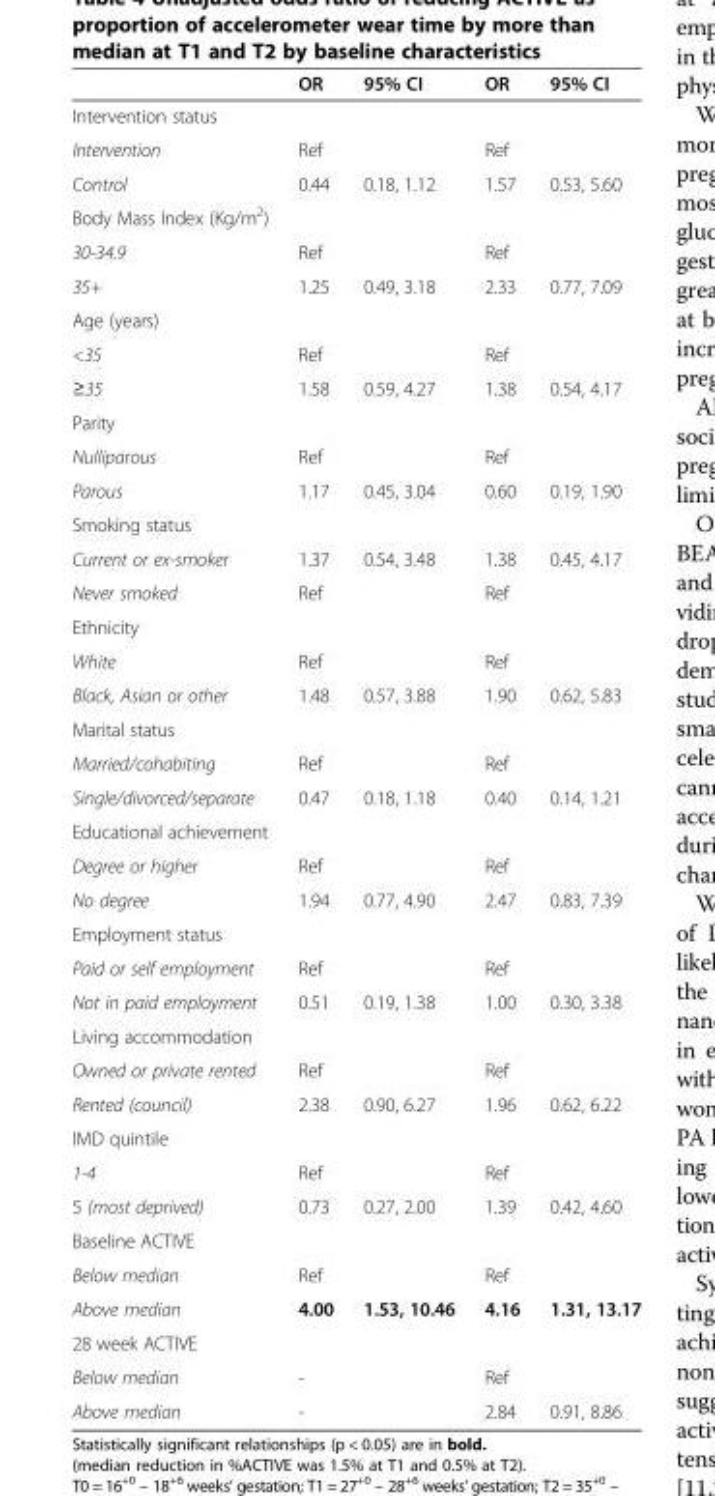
<table><thead><tr><td></td><td>OR</td><td>95% CI</td><td>OR</td><td>95% CI</td></tr></thead><tbody><tr><td colspan="5">Intervention status</td></tr><tr><td>Intervention</td><td>Ref</td><td></td><td>Ref</td><td></td></tr><tr><td>Control</td><td>0.44</td><td>0.18, 1.12</td><td>1.57</td><td>0.53, 5.60</td></tr><tr><td colspan="5">Body Mass Index (Kg/m<sup>2</sup>)</td></tr><tr><td>30-34.9</td><td>Ref</td><td></td><td>Ref</td><td></td></tr><tr><td>35+</td><td>1.25</td><td>0.49, 3.18</td><td>2.33</td><td>0.77, 7.09</td></tr><tr><td colspan="5">Age (years)</td></tr><tr><td>&lt;35</td><td>Ref</td><td></td><td>Ref</td><td></td></tr><tr><td>≥35</td><td>1.58</td><td>0.59, 4.27</td><td>1.38</td><td>0.54, 4.17</td></tr><tr><td colspan="5">Parity</td></tr><tr><td>Nulliparous</td><td>Ref</td><td></td><td>Ref</td><td></td></tr><tr><td>Parous</td><td>1.17</td><td>0.45, 3.04</td><td>0.60</td><td>0.19, 1.90</td></tr><tr><td colspan="5">Smoking status</td></tr><tr><td>Current or ex-smoker</td><td>1.37</td><td>0.54, 3.48</td><td>1.38</td><td>0.45, 4.17</td></tr><tr><td>Never smoked</td><td>Ref</td><td></td><td>Ref</td><td></td></tr><tr><td colspan="5">Ethnicity</td></tr><tr><td>White</td><td>Ref</td><td></td><td>Ref</td><td></td></tr><tr><td>Black, Asian or other</td><td>1.48</td><td>0.57, 3.88</td><td>1.90</td><td>0.62, 5.83</td></tr><tr><td colspan="5">Marital status</td></tr><tr><td>Married/cohabiting</td><td>Ref</td><td></td><td>Ref</td><td></td></tr><tr><td>Single/divorced/separate</td><td>0.47</td><td>0.18, 1.18</td><td>0.40</td><td>0.14, 1.21</td></tr><tr><td colspan="5">Educational achievement</td></tr><tr><td>Degree or higher</td><td>Ref</td><td></td><td>Ref</td><td></td></tr><tr><td>No degree</td><td>1.94</td><td>0.77, 4.90</td><td>2.47</td><td>0.83, 7.39</td></tr><tr><td colspan="5">Employment status</td></tr><tr><td>Paid or self employment</td><td>Ref</td><td></td><td>Ref</td><td></td></tr><tr><td>Not in paid employment</td><td>0.51</td><td>0.19, 1.38</td><td>1.00</td><td>0.30, 3.38</td></tr><tr><td colspan="5">Living accommodation</td></tr><tr><td>Owned or private rented</td><td>Ref</td><td></td><td>Ref</td><td></td></tr><tr><td>Rented (council)</td><td>2.38</td><td>0.90, 6.27</td><td>1.96</td><td>0.62, 6.22</td></tr><tr><td colspan="5">IMD quintile</td></tr><tr><td>1-4</td><td>Ref</td><td></td><td>Ref</td><td></td></tr><tr><td>5 (most deprived)</td><td>0.73</td><td>0.27, 2.00</td><td>1.39</td><td>0.42, 4.60</td></tr><tr><td colspan="5">Baseline ACTIVE</td></tr><tr><td>Below median</td><td>Ref</td><td></td><td>Ref</td><td></td></tr><tr><td>Above median</td><td>4.00</td><td>1.53, 10.46</td><td>4.16</td><td>1.31, 13.17</td></tr><tr><td colspan="5">28 week ACTIVE</td></tr><tr><td>Below median</td><td>-</td><td></td><td>Ref</td><td></td></tr><tr><td>Above median</td><td>-</td><td></td><td>2.84</td><td>0.91, 8.86</td></tr></tbody></table>